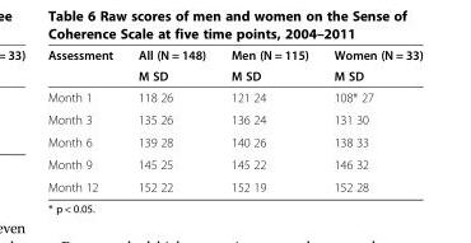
<table><thead><tr><td rowspan="2">Assessment</td><td rowspan="2">All (N = 148) M SD</td><td rowspan="2">Men (N = 115) M SD</td><td rowspan="2">Women (N = 33) M SD</td></tr><tr></tr></thead><tbody><tr><td>Month 1</td><td>118 26</td><td>121 24</td><td>108* 27</td></tr><tr><td>Month 3</td><td>135 26</td><td>136 24</td><td>131 30</td></tr><tr><td>Month 6</td><td>139 28</td><td>140 26</td><td>138 33</td></tr><tr><td>Month 9</td><td>145 25</td><td>145 22</td><td>146 32</td></tr><tr><td>Month 12</td><td>152 22</td><td>152 19</td><td>152 28</td></tr></tbody></table>